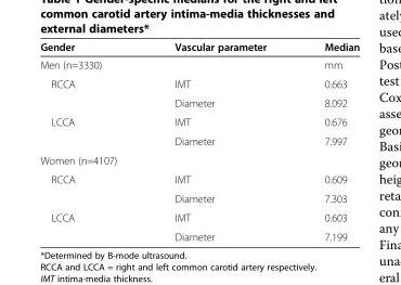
<table><thead><tr><td>Gender</td><td>Vascular parameter</td><td>Median</td></tr></thead><tbody><tr><td>Men (n=3330)</td><td></td><td>mm</td></tr><tr><td rowspan="2">RCCA</td><td>IMT</td><td>0.663</td></tr><tr><td>Diameter</td><td>8.092</td></tr><tr><td rowspan="2">LCCA</td><td>IMT</td><td>0.676</td></tr><tr><td>Diameter</td><td>7.997</td></tr><tr><td colspan="3">Women (n=4107)</td></tr><tr><td rowspan="2">RCCA</td><td>IMT</td><td>0.609</td></tr><tr><td>Diameter</td><td>7.303</td></tr><tr><td rowspan="2">LCCA</td><td>IMT</td><td>0.603</td></tr><tr><td>Diameter</td><td>7.199</td></tr></tbody></table>